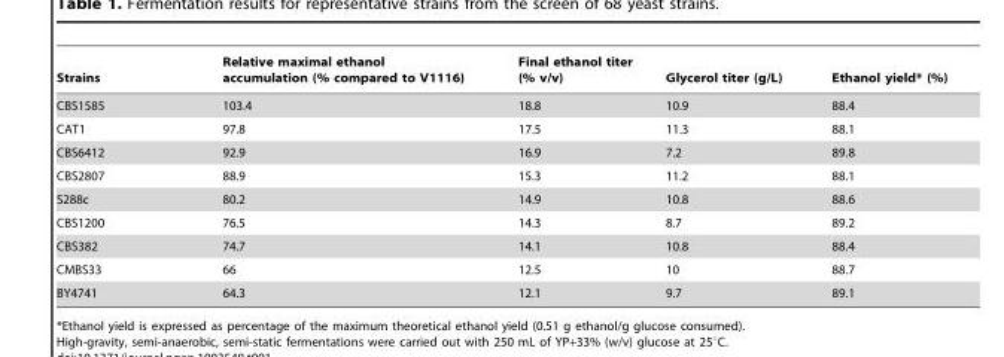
<table><thead><tr><td>Strains</td><td>Relative maximal ethanol accumulation (% compared to V1116)</td><td>Final ethanol titer (% v/v)</td><td>Glycerol titer (g/L)</td><td>Ethanol yield* (%)</td></tr></thead><tbody><tr><td>CBS1585</td><td>103.4</td><td>18.8</td><td>10.9</td><td>88.4</td></tr><tr><td>CAT1</td><td>97.8</td><td>17.5</td><td>11.3</td><td>88.1</td></tr><tr><td>CBS6412</td><td>92.9</td><td>16.9</td><td>7.2</td><td>89.8</td></tr><tr><td>CBS2807</td><td>88.9</td><td>15.3</td><td>11.2</td><td>88.1</td></tr><tr><td>S288c</td><td>80.2</td><td>14.9</td><td>10.8</td><td>88.6</td></tr><tr><td>CBS1200</td><td>76.5</td><td>14.3</td><td>8.7</td><td>89.2</td></tr><tr><td>CBS382</td><td>74.7</td><td>14.1</td><td>10.8</td><td>88.4</td></tr><tr><td>CMBS33</td><td>66</td><td>12.5</td><td>10</td><td>88.7</td></tr><tr><td>BY4741</td><td>64.3</td><td>12.1</td><td>9.7</td><td>89.1</td></tr></tbody></table>